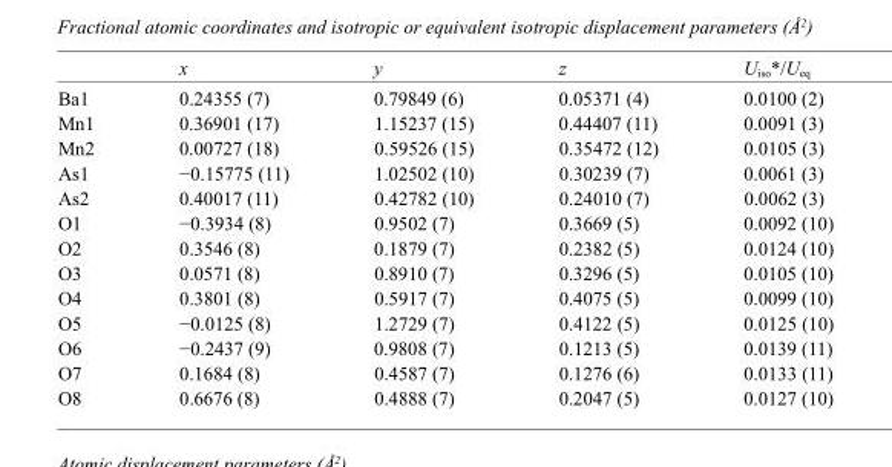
<table><thead><tr><td></td><td>x</td><td>y</td><td>z</td><td>U<sub>iso</sub>*/U<sub>eq</sub></td></tr></thead><tbody><tr><td>Ba1</td><td>0.24355 (7)</td><td>0.79849 (6)</td><td>0.05371 (4)</td><td>0.0100 (2)</td></tr><tr><td>Mn1</td><td>0.36901 (17)</td><td>1.15237 (15)</td><td>0.44407 (11)</td><td>0.0091 (3)</td></tr><tr><td>Mn2</td><td>0.00727 (18)</td><td>0.59526 (15)</td><td>0.35472 (12)</td><td>0.0105 (3)</td></tr><tr><td>As1</td><td>−0.15775 (11)</td><td>1.02502 (10)</td><td>0.30239 (7)</td><td>0.0061 (3)</td></tr><tr><td>As2</td><td>0.40017 (11)</td><td>0.42782 (10)</td><td>0.24010 (7)</td><td>0.0062 (3)</td></tr><tr><td>O1</td><td>−0.3934 (8)</td><td>0.9502 (7)</td><td>0.3669 (5)</td><td>0.0092 (10)</td></tr><tr><td>O2</td><td>0.3546 (8)</td><td>0.1879 (7)</td><td>0.2382 (5)</td><td>0.0124 (10)</td></tr><tr><td>O3</td><td>0.0571 (8)</td><td>0.8910 (7)</td><td>0.3296 (5)</td><td>0.0105 (10)</td></tr><tr><td>O4</td><td>0.3801 (8)</td><td>0.5917 (7)</td><td>0.4075 (5)</td><td>0.0099 (10)</td></tr><tr><td>O5</td><td>−0.0125 (8)</td><td>1.2729 (7)</td><td>0.4122 (5)</td><td>0.0125 (10)</td></tr><tr><td>O6</td><td>−0.2437 (9)</td><td>0.9808 (7)</td><td>0.1213 (5)</td><td>0.0139 (11)</td></tr><tr><td>O7</td><td>0.1684 (8)</td><td>0.4587 (7)</td><td>0.1276 (6)</td><td>0.0133 (11)</td></tr><tr><td>O8</td><td>0.6676 (8)</td><td>0.4888 (7)</td><td>0.2047 (5)</td><td>0.0127 (10)</td></tr></tbody></table>